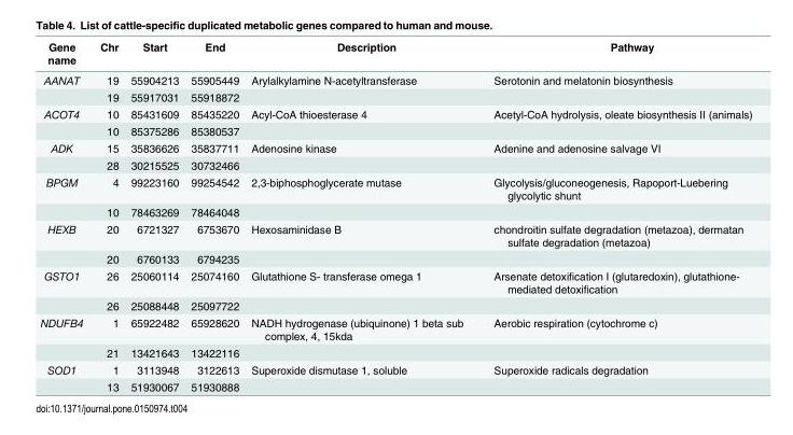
<table><thead><tr><td>Gene name</td><td>Chr</td><td>Start</td><td>End</td><td>Description</td><td>Pathway</td></tr></thead><tbody><tr><td rowspan="2">AANAT</td><td>19</td><td>55904213</td><td>55905449</td><td>Arylalkylamine N-acetyltransferase</td><td>Serotonin and melatonin biosynthesis</td></tr><tr><td>19</td><td>55917031</td><td>55918872</td><td></td><td></td></tr><tr><td rowspan="2">ACOT4</td><td>10</td><td>85431609</td><td>85435220</td><td>Acyl-CoA thioesterase 4</td><td>Acetyl-CoA hydrolysis, oleate biosynthesis II (animals)</td></tr><tr><td>10</td><td>85375286</td><td>85380537</td><td></td><td></td></tr><tr><td rowspan="2">ADK</td><td>15</td><td>35836626</td><td>35837711</td><td>Adenosine kinase</td><td>Adenine and adenosine salvage VI</td></tr><tr><td>28</td><td>30215525</td><td>30732466</td><td></td><td></td></tr><tr><td rowspan="2">BPGM</td><td>4</td><td>99223160</td><td>99254542</td><td>2,3-biphosphoglycerate mutase</td><td>Glycolysis/gluconeogenesis, Rapoport-Luebering glycolytic shunt</td></tr><tr><td>10</td><td>78463269</td><td>78464048</td><td></td><td></td></tr><tr><td rowspan="2">HEXB</td><td>20</td><td>6721327</td><td>6753670</td><td>Hexosaminidase B</td><td>chondroitin sulfate degradation (metazoa), dermatan sulfate degradation (metazoa)</td></tr><tr><td>20</td><td>6760133</td><td>6794235</td><td></td><td></td></tr><tr><td rowspan="2">GSTO1</td><td>26</td><td>25060114</td><td>25074160</td><td>Glutathione S- transferase omega 1</td><td>Arsenate detoxification I (glutaredoxin), glutathione- mediated detoxification</td></tr><tr><td>26</td><td>25088448</td><td>25097722</td><td></td><td></td></tr><tr><td rowspan="2">NDUFB4</td><td>1</td><td>65922482</td><td>65928620</td><td>NADH hydrogenase (ubiquinone) 1 beta sub complex, 4, 15kda</td><td>Aerobic respiration (cytochrome c)</td></tr><tr><td>21</td><td>13421643</td><td>13422116</td><td></td><td></td></tr><tr><td rowspan="2">SOD1</td><td>1</td><td>3113948</td><td>3122613</td><td>Superoxide dismutase 1, soluble</td><td>Superoxide radicals degradation</td></tr><tr><td>13</td><td>51930067</td><td>51930888</td><td></td><td></td></tr></tbody></table>